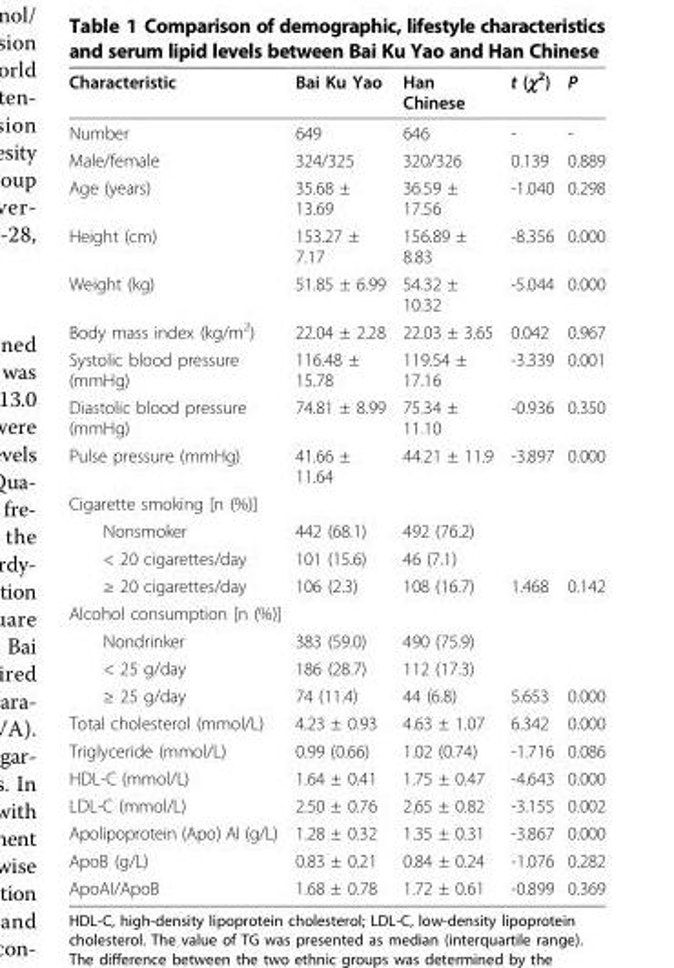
<table><thead><tr><td>Characteristic</td><td>Bai Ku Yao</td><td>Han Chinese</td><td>t (χ<sup>2</sup>)</td><td>P</td></tr></thead><tbody><tr><td>Number</td><td>649</td><td>646</td><td>-</td><td>-</td></tr><tr><td>Male/female</td><td>324/325</td><td>320/326</td><td>0.139</td><td>0.889</td></tr><tr><td>Age (years)</td><td>35.68 ± 13.69</td><td>36.59 ± 17.56</td><td>-1.040</td><td>0.298</td></tr><tr><td>Height (cm)</td><td>153.27 ± 7.17</td><td>156.89 ± 8.83</td><td>-8.356</td><td>0.000</td></tr><tr><td>Weight (kg)</td><td>51.85 ± 6.99</td><td>54.32 ± 10.32</td><td>-5.044</td><td>0.000</td></tr><tr><td>Body mass index (kg/m<sup>2</sup>)</td><td>22.04 ± 2.28</td><td>22.03 ± 3.65</td><td>0.042</td><td>0.967</td></tr><tr><td>Systolic blood pressure (mmHg)</td><td>116.48 ± 15.78</td><td>119.54 ± 17.16</td><td>-3.339</td><td>0.001</td></tr><tr><td>Diastolic blood pressure (mmHg)</td><td>74.81 ± 8.99</td><td>75.34 ± 11.10</td><td>-0.936</td><td>0.350</td></tr><tr><td>Pulse pressure (mmHg)</td><td>41.66 ± 11.64</td><td>44.21 ± 11.9</td><td>-3.897</td><td>0.000</td></tr><tr><td colspan="5">Cigarette smoking [n (%)]</td></tr><tr><td>Nonsmoker</td><td>442 (68.1)</td><td>492 (76.2)</td><td></td><td></td></tr><tr><td>&lt; 20 cigarettes/day</td><td>101 (15.6)</td><td>46 (7.1)</td><td></td><td></td></tr><tr><td>≥ 20 cigarettes/day</td><td>106 (2.3)</td><td>108 (16.7)</td><td>1.468</td><td>0.142</td></tr><tr><td colspan="5">Alcohol consumption [n (%)]</td></tr><tr><td>Nondrinker</td><td>383 (59.0)</td><td>490 (75.9)</td><td></td><td></td></tr><tr><td>&lt; 25 g/day</td><td>186 (28.7)</td><td>112 (17.3)</td><td></td><td></td></tr><tr><td>≥ 25 g/day</td><td>74 (11.4)</td><td>44 (6.8)</td><td>5.653</td><td>0.000</td></tr><tr><td>Total cholesterol (mmol/L)</td><td>4.23 ± 0.93</td><td>4.63 ± 1.07</td><td>6.342</td><td>0.000</td></tr><tr><td>Triglyceride (mmol/L)</td><td>0.99 (0.66)</td><td>1.02 (0.74)</td><td>-1.716</td><td>0.086</td></tr><tr><td>HDL-C (mmol/L)</td><td>1.64 ± 0.41</td><td>1.75 ± 0.47</td><td>-4.643</td><td>0.000</td></tr><tr><td>LDL-C (mmol/L)</td><td>2.50 ± 0.76</td><td>2.65 ± 0.82</td><td>-3.155</td><td>0.002</td></tr><tr><td>Apolipoprotein (Apo) AI (g/L)</td><td>1.28 ± 0.32</td><td>1.35 ± 0.31</td><td>-3.867</td><td>0.000</td></tr><tr><td>ApoB (g/L)</td><td>0.83 ± 0.21</td><td>0.84 ± 0.24</td><td>-1.076</td><td>0.282</td></tr><tr><td>ApoAI/ApoB</td><td>1.68 ± 0.78</td><td>1.72 ± 0.61</td><td>-0.899</td><td>0.369</td></tr></tbody></table>